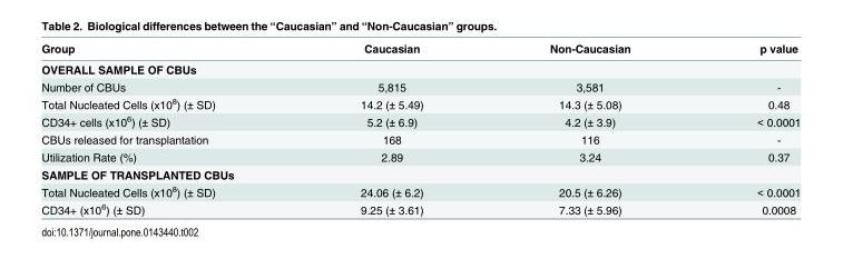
<table><thead><tr><td>Group</td><td>Caucasian</td><td>Non-Caucasian</td><td>p value</td></tr></thead><tbody><tr><td colspan="4">OVERALL SAMPLE OF CBUs</td></tr><tr><td>Number of CBUs</td><td>5,815</td><td>3,581</td><td>-</td></tr><tr><td>Total Nucleated Cells (x10<sup>8</sup>) (± SD)</td><td>14.2 (± 5.49)</td><td>14.3 (± 5.08)</td><td>0.48</td></tr><tr><td>CD34+ cells (x10<sup>6</sup>) (± SD)</td><td>5.2 (± 6.9)</td><td>4.2 (± 3.9)</td><td>&lt; 0.0001</td></tr><tr><td>CBUs released for transplantation</td><td>168</td><td>116</td><td>-</td></tr><tr><td>Utilization Rate (%)</td><td>2.89</td><td>3.24</td><td>0.37</td></tr><tr><td colspan="4">SAMPLE OF TRANSPLANTED CBUs</td></tr><tr><td>Total Nucleated Cells (x10<sup>8</sup>) (± SD)</td><td>24.06 (± 6.2)</td><td>20.5 (± 6.26)</td><td>&lt; 0.0001</td></tr><tr><td>CD34+ (x10<sup>6</sup>) (± SD)</td><td>9.25 (± 3.61)</td><td>7.33 (± 5.96)</td><td>0.0008</td></tr></tbody></table>